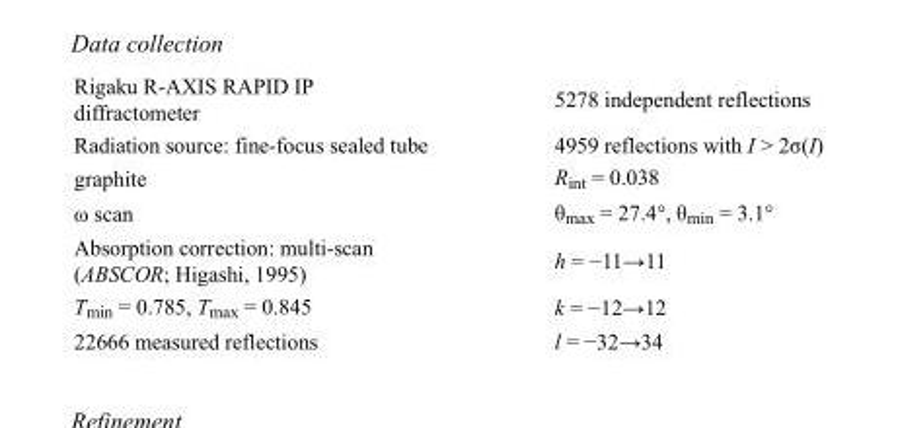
<table><tbody><tr><td>Rigaku R-AXIS RAPID IP diffractometer</td><td>5278 independent reflections</td></tr><tr><td>Radiation source: fine-focus sealed tube</td><td>4959 reflections with I &gt; 2σ(I)</td></tr><tr><td>graphite</td><td>R<sub>int</sub> = 0.038</td></tr><tr><td>ω scan</td><td>θ<sub>max</sub> = 27.4°, θ<sub>min</sub> = 3.1°</td></tr><tr><td>Absorption correction: multi-scan (ABSCOR; Higashi, 1995)</td><td>h = −11→11</td></tr><tr><td>T<sub>min</sub> = 0.785, T<sub>max</sub> = 0.845</td><td>k = −12→12</td></tr><tr><td>22666 measured reflections</td><td>l = −32→34</td></tr></tbody></table>